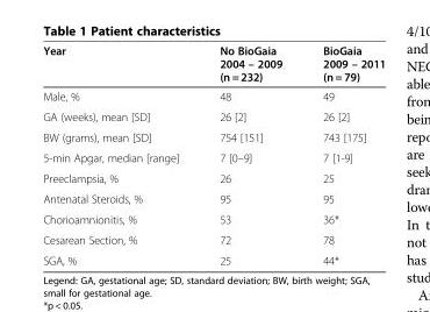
<table><thead><tr><td>Year</td><td>No BioGaia 2004 – 2009 (n = 232)</td><td>BioGaia 2009 – 2011 (n = 79)</td></tr></thead><tbody><tr><td>Male, %</td><td>48</td><td>49</td></tr><tr><td>GA (weeks), mean [SD]</td><td>26 [2]</td><td>26 [2]</td></tr><tr><td>BW (grams), mean [SD]</td><td>754 [151]</td><td>743 [175]</td></tr><tr><td>5-min Apgar, median [range]</td><td>7 [0–9]</td><td>7 [1-9]</td></tr><tr><td>Preeclampsia, %</td><td>26</td><td>25</td></tr><tr><td>Antenatal Steroids, %</td><td>95</td><td>95</td></tr><tr><td>Chorioamnionitis, %</td><td>53</td><td>36*</td></tr><tr><td>Cesarean Section, %</td><td>72</td><td>78</td></tr><tr><td>SGA, %</td><td>25</td><td>44*</td></tr></tbody></table>